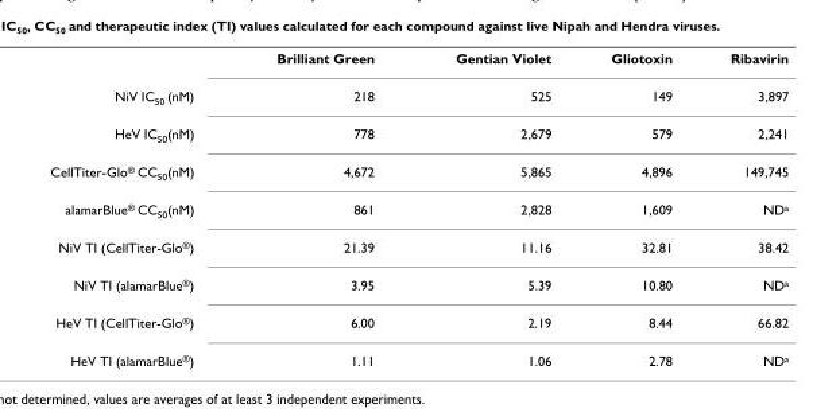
<table><thead><tr><td></td><td>Brilliant Green</td><td>Gentian Violet</td><td>Gliotoxin</td><td>Ribavirin</td></tr></thead><tbody><tr><td>NiV IC<sub>50</sub> (nM)</td><td>218</td><td>525</td><td>149</td><td>3,897</td></tr><tr><td>HeV IC<sub>50</sub>(nM)</td><td>778</td><td>2,679</td><td>579</td><td>2,241</td></tr><tr><td>CellTiter-Glo<sup>®</sup> CC<sub>50</sub>(nM)</td><td>4,672</td><td>5,865</td><td>4,896</td><td>149,745</td></tr><tr><td>alamarBlue<sup>®</sup> CC<sub>50</sub>(nM)</td><td>861</td><td>2,828</td><td>1,609</td><td>ND<sup>a</sup></td></tr><tr><td>NiV TI (CellTiter-Glo<sup>®</sup>)</td><td>21.39</td><td>11.16</td><td>32.81</td><td>38.42</td></tr><tr><td>NiV TI (alamarBlue<sup>®</sup>)</td><td>3.95</td><td>5.39</td><td>10.80</td><td>ND<sup>a</sup></td></tr><tr><td>HeV TI (CellTiter-Glo<sup>®</sup>)</td><td>6.00</td><td>2.19</td><td>8.44</td><td>66.82</td></tr><tr><td>HeV TI (alamarBlue<sup>®</sup>)</td><td>1.11</td><td>1.06</td><td>2.78</td><td>ND<sup>a</sup></td></tr></tbody></table>